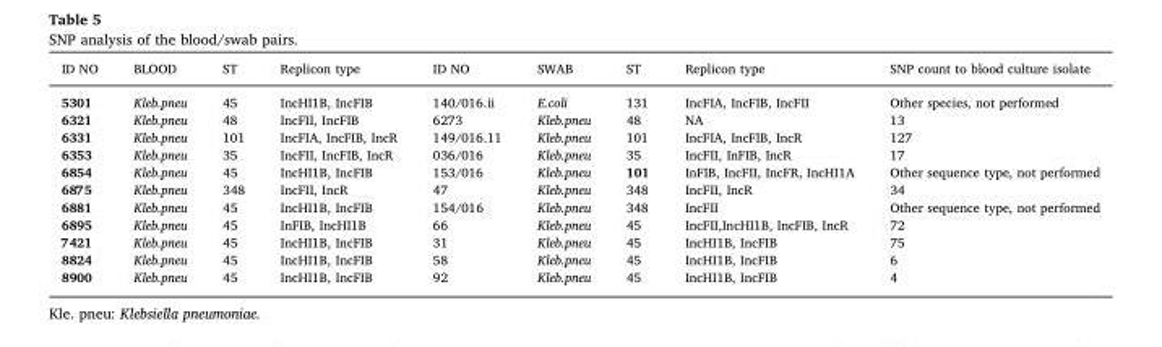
<table><thead><tr><td>ID NO</td><td>BLOOD</td><td>ST</td><td>Replicon type</td><td>ID NO</td><td>SWAB</td><td>ST</td><td>Replicon type</td><td>SNP count to blood culture isolate</td></tr></thead><tbody><tr><td>5301</td><td>Kleb.pneu</td><td>45</td><td>IncHI1B, IncFIB</td><td>140/016.ii</td><td>E.coli</td><td>131</td><td>IncFIA, IncFIB, IncFII</td><td>Other species, not performed</td></tr><tr><td>6321</td><td>Kleb.pneu</td><td>48</td><td>IncFII, IncFIB</td><td>6273</td><td>Kleb.pneu</td><td>48</td><td>NA</td><td>13</td></tr><tr><td>6331</td><td>Kleb.pneu</td><td>101</td><td>IncFIA, IncFIB, IncR</td><td>149/016.11</td><td>Kleb.pneu</td><td>101</td><td>IncFIA, IncFIB, IncR</td><td>127</td></tr><tr><td>6353</td><td>Kleb.pneu</td><td>35</td><td>IncFII, IncFIB, IncR</td><td>036/016</td><td>Kleb.pneu</td><td>35</td><td>IncFII, InFIB, IncR</td><td>17</td></tr><tr><td>6854</td><td>Kleb.pneu</td><td>45</td><td>IncHI1B, IncFIB</td><td>153/016</td><td>Kleb.pneu</td><td>101</td><td>InFIB, IncFII, IncFR, IncHI1A</td><td>Other sequence type, not performed</td></tr><tr><td>6875</td><td>Kleb.pneu</td><td>348</td><td>IncFII, IncR</td><td>47</td><td>Kleb.pneu</td><td>348</td><td>IncFII, IncR</td><td>34</td></tr><tr><td>6881</td><td>Kleb.pneu</td><td>45</td><td>IncHI1B, IncFIB</td><td>154/016</td><td>Kleb.pneu</td><td>348</td><td>IncFII</td><td>Other sequence type, not performed</td></tr><tr><td>6895</td><td>Kleb.pneu</td><td>45</td><td>InFIB, IncHI1B</td><td>66</td><td>Kleb.pneu</td><td>45</td><td>IncFII,IncHI1B, IncFIB, IncR</td><td>72</td></tr><tr><td>7421</td><td>Kleb.pneu</td><td>45</td><td>IncHI1B, IncFIB</td><td>31</td><td>Kleb.pneu</td><td>45</td><td>IncHI1B, IncFIB</td><td>75</td></tr><tr><td>8824</td><td>Kleb.pneu</td><td>45</td><td>IncHI1B, IncFIB</td><td>58</td><td>Kleb.pneu</td><td>45</td><td>IncHI1B, IncFIB</td><td>6</td></tr><tr><td>8900</td><td>Kleb.pneu</td><td>45</td><td>IncHI1B, IncFIB</td><td>92</td><td>Kleb.pneu</td><td>45</td><td>IncHI1B, IncFIB</td><td>4</td></tr></tbody></table>